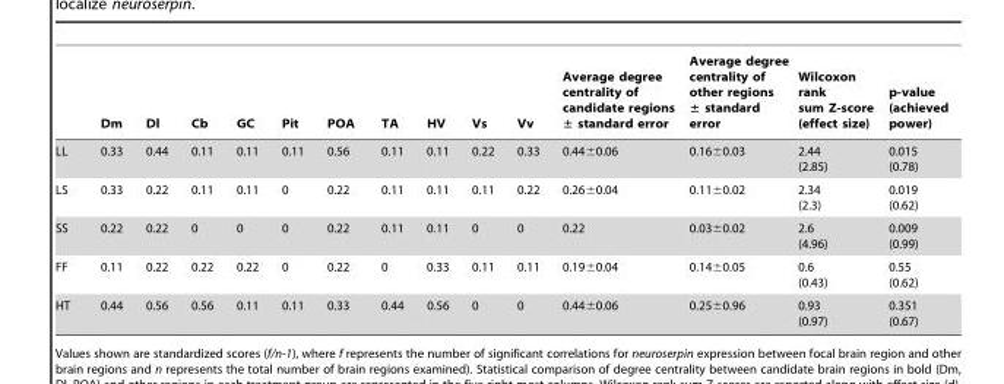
<table><thead><tr><td></td><td>Dm</td><td>Dl</td><td>Cb</td><td>GC</td><td>Pit</td><td>POA</td><td>TA</td><td>HV</td><td>Vs</td><td>Vv</td><td>Average degree centrality of candidate regions ± standard error</td><td>Average degree centrality of other regions ± standard error</td><td>Wilcoxon rank sum Z-score (effect size)</td><td>p-value (achieved power)</td></tr></thead><tbody><tr><td>LL</td><td>0.33</td><td>0.44</td><td>0.11</td><td>0.11</td><td>0.11</td><td>0.56</td><td>0.11</td><td>0.11</td><td>0.22</td><td>0.33</td><td>0.44±0.06</td><td>0.16±0.03</td><td>2.44 (2.85)</td><td>0.015 (0.78)</td></tr><tr><td>LS</td><td>0.33</td><td>0.22</td><td>0.11</td><td>0.11</td><td>0</td><td>0.22</td><td>0.11</td><td>0.11</td><td>0.11</td><td>0.22</td><td>0.26±0.04</td><td>0.11±0.02</td><td>2.34 (2.3)</td><td>0.019 (0.62)</td></tr><tr><td>SS</td><td>0.22</td><td>0.22</td><td>0</td><td>0</td><td>0</td><td>0.22</td><td>0.11</td><td>0.11</td><td>0</td><td>0</td><td>0.22</td><td>0.03±0.02</td><td>2.6 (4.96)</td><td>0.009 (0.99)</td></tr><tr><td>FF</td><td>0.11</td><td>0.22</td><td>0.22</td><td>0.22</td><td>0</td><td>0.22</td><td>0</td><td>0.33</td><td>0.11</td><td>0.11</td><td>0.19±0.04</td><td>0.14±0.05</td><td>0.6 (0.43)</td><td>0.55 (0.62)</td></tr><tr><td>HT</td><td>0.44</td><td>0.56</td><td>0.56</td><td>0.11</td><td>0.11</td><td>0.33</td><td>0.44</td><td>0.56</td><td>0</td><td>0</td><td>0.44±0.06</td><td>0.25±0.96</td><td>0.93 (0.97)</td><td>0.351 (0.67)</td></tr></tbody></table>